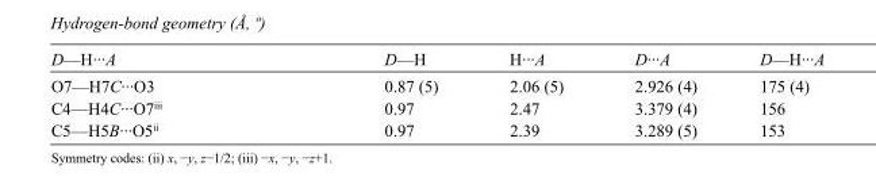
<table><tbody><tr><td>D—H···A</td><td>D—H</td><td>H···A</td><td>D···A</td><td>D—H···A</td></tr><tr><td>O7—H7C···O3</td><td>0.87 (5)</td><td>2.06 (5)</td><td>2.926 (4)</td><td>175 (4)</td></tr><tr><td>C4—H4C···O7<sup>iii</sup></td><td>0.97</td><td>2.47</td><td>3.379 (4)</td><td>156</td></tr><tr><td>C5—H5B···O5<sup>ii</sup></td><td>0.97</td><td>2.39</td><td>3.289 (5)</td><td>153</td></tr></tbody></table>